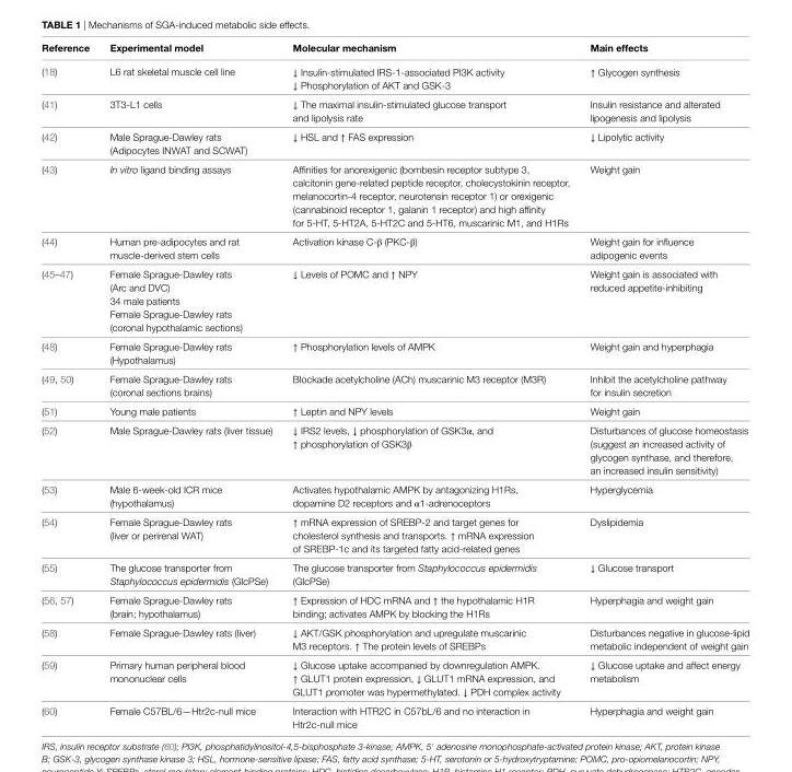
<table><thead><tr><td>reference</td><td>experimental model</td><td>Molecular mechanism</td><td>Main effects</td></tr></thead><tbody><tr><td>(18)</td><td>L6 rat skeletal muscle cell line</td><td>↓ Insulin-stimulated IRS-1-associated PI3K activity ↓ Phosphorylation of AKT and GSK-3</td><td>↑ Glycogen synthesis</td></tr><tr><td>(41)</td><td>3T3-L1 cells</td><td>↓ The maximal insulin-stimulated glucose transport and lipolysis rate</td><td>Insulin resistance and alterated lipogenesis and lipolysis</td></tr><tr><td>(42)</td><td>Male Sprague-Dawley rats (Adipocytes INWAT and SCWAT)</td><td>↓ HSL and ↑ FAS expression</td><td>↓ Lipolytic activity</td></tr><tr><td>(43)</td><td>In vitro ligand binding assays</td><td>Affinities for anorexigenic (bombesin receptor subtype 3, calcitonin gene-related peptide receptor, cholecystokinin receptor, melanocortin-4 receptor, neurotensin receptor 1) or orexigenic (cannabinoid receptor 1, galanin 1 receptor) and high affinity for 5-HT, 5-HT2A, 5-HT2C and 5-HT6, muscarinic M1, and H1Rs</td><td>Weight gain</td></tr><tr><td>(44)</td><td>Human pre-adipocytes and rat muscle-derived stem cells</td><td>Activation kinase C-β (PKC-β)</td><td>Weight gain for influence adipogenic events</td></tr><tr><td>(45–47)</td><td>Female Sprague-Dawley rats (Arc and DVC) 34 male patients Female Sprague-Dawley rats (coronal hypothalamic sections)</td><td>↓ Levels of POMC and ↑ NPY</td><td>Weight gain is associated with reduced appetite-inhibiting</td></tr><tr><td>(48)</td><td>Female Sprague-Dawley rats (Hypothalamus)</td><td>↑ Phosphorylation levels of AMPK</td><td>Weight gain and hyperphagia</td></tr><tr><td>(49, 50)</td><td>Female Sprague-Dawley rats (coronal sections brains)</td><td>Blockade acetylcholine (ACh) muscarinic M3 receptor (M3R)</td><td>Inhibit the acetylcholine pathway for insulin secretion</td></tr><tr><td>(51)</td><td>Young male patients</td><td>↑ Leptin and NPY levels</td><td>Weight gain</td></tr><tr><td>(52)</td><td>Male Sprague-Dawley rats (liver tissue)</td><td>↓ IRS2 levels, ↓ phosphorylation of GSK3α, and ↑ phosphorylation of GSK3β</td><td>Disturbances of glucose homeostasis (suggest an increased activity of glycogen synthase, and therefore, an increased insulin sensitivity)</td></tr><tr><td>(53)</td><td>Male 6-week-old ICR mice (hypothalamus)</td><td>Activates hypothalamic AMPK by antagonizing H1Rs, dopamine D2 receptors and α1-adrenoceptors</td><td>Hyperglycemia</td></tr><tr><td>(54)</td><td>Female Sprague-Dawley rats (liver or perirenal WAT)</td><td>↑ mRNA expression of SREBP-2 and target genes for cholesterol synthesis and transports. ↑ mRNA expression of SREBP-1c and its targeted fatty acid-related genes</td><td>Dyslipidemia</td></tr><tr><td>(55)</td><td>The glucose transporter from Staphylococcus epidermidis (GlcPSe)</td><td>The glucose transporter from Staphylococcus epidermidis (GlcPSe)</td><td>↓ Glucose transport</td></tr><tr><td>(56, 57)</td><td>Female Sprague-Dawley rats (brain; hypothalamus)</td><td>↑ Expression of HDC mRNA and ↑ the hypothalamic H1R binding; activates AMPK by blocking the H1Rs</td><td>Hyperphagia and weight gain</td></tr><tr><td>(58)</td><td>Female Sprague-Dawley rats (liver)</td><td>↓ AKT/GSK phosphorylation and upregulate muscarinic M3 receptors. ↑ The protein levels of SREBPs</td><td>Disturbances negative in glucose-lipid metabolic independent of weight gain</td></tr><tr><td>(59)</td><td>Primary human peripheral blood mononuclear cells</td><td>↓ Glucose uptake accompanied by downregulation AMPK. ↑ GLUT1 protein expression, ↓ GLUT1 mRNA expression, and GLUT1 promoter was hypermethylated. ↓ PDH complex activity</td><td>↓ Glucose uptake and affect energy metabolism</td></tr><tr><td>(60)</td><td>Female C57BL/6—Htr2c-null mice</td><td>Interaction with HTR2C in C57bL/6 and no interaction in Htr2c-null mice</td><td>Hyperphagia and weight gain</td></tr></tbody></table>